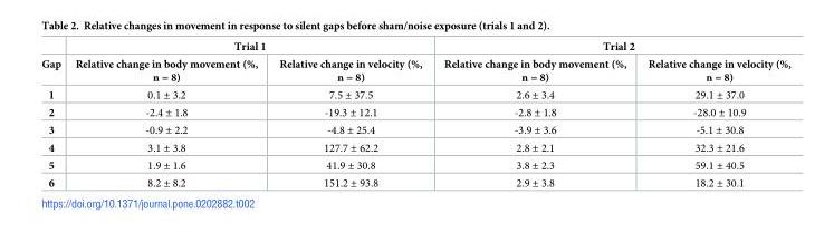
<table><thead><tr><td rowspan="2">Gap</td><td colspan="2">Trial 1</td><td colspan="2">Trial 2</td></tr><tr><td>Relative change in body movement (%, n = 8)</td><td>Relative change in velocity (%, n = 8)</td><td>Relative change in body movement (%, n = 8)</td><td>Relative change in velocity (%, n = 8)</td></tr></thead><tbody><tr><td>1</td><td>0.1 ± 3.2</td><td>7.5 ± 37.5</td><td>2.6 ± 3.4</td><td>29.1 ± 37.0</td></tr><tr><td>2</td><td>-2.4 ± 1.8</td><td>-19.3 ± 12.1</td><td>-2.8 ± 1.8</td><td>-28.0 ± 10.9</td></tr><tr><td>3</td><td>-0.9 ± 2.2</td><td>-4.8 ± 25.4</td><td>-3.9 ± 3.6</td><td>-5.1 ± 30.8</td></tr><tr><td>4</td><td>3.1 ± 3.8</td><td>127.7 ± 62.2</td><td>2.8 ± 2.1</td><td>32.3 ± 21.6</td></tr><tr><td>5</td><td>1.9 ± 1.6</td><td>41.9 ± 30.8</td><td>3.8 ± 2.3</td><td>59.1 ± 40.5</td></tr><tr><td>6</td><td>8.2 ± 8.2</td><td>151.2 ± 93.8</td><td>2.9 ± 3.8</td><td>18.2 ± 30.1</td></tr></tbody></table>